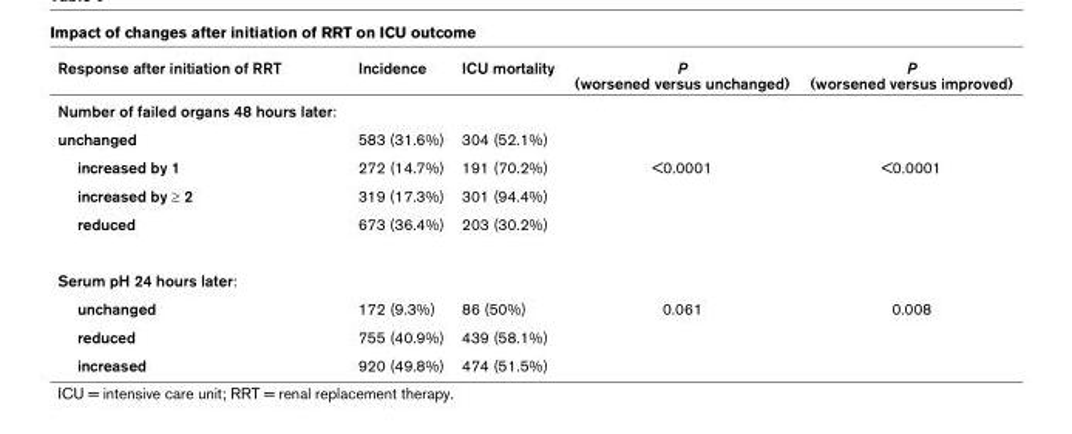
<table><thead><tr><td>Response after initiation of RRT</td><td>Incidence</td><td>ICU mortality</td><td>P (worsened versus unchanged)</td><td>P (worsened versus improved)</td></tr></thead><tbody><tr><td colspan="5">Number of failed organs 48 hours later:</td></tr><tr><td>unchanged</td><td>583 (31.6%)</td><td>304 (52.1%)</td><td></td><td></td></tr><tr><td>increased by 1</td><td>272 (14.7%)</td><td>191 (70.2%)</td><td>&lt;0.0001</td><td>&lt;0.0001</td></tr><tr><td>increased by ≥ 2</td><td>319 (17.3%)</td><td>301 (94.4%)</td><td></td><td></td></tr><tr><td>reduced</td><td>673 (36.4%)</td><td>203 (30.2%)</td><td></td><td></td></tr><tr><td colspan="5">Serum pH 24 hours later:</td></tr><tr><td>unchanged</td><td>172 (9.3%)</td><td>86 (50%)</td><td>0.061</td><td>0.008</td></tr><tr><td>reduced</td><td>755 (40.9%)</td><td>439 (58.1%)</td><td></td><td></td></tr><tr><td>increased</td><td>920 (49.8%)</td><td>474 (51.5%)</td><td></td><td></td></tr></tbody></table>